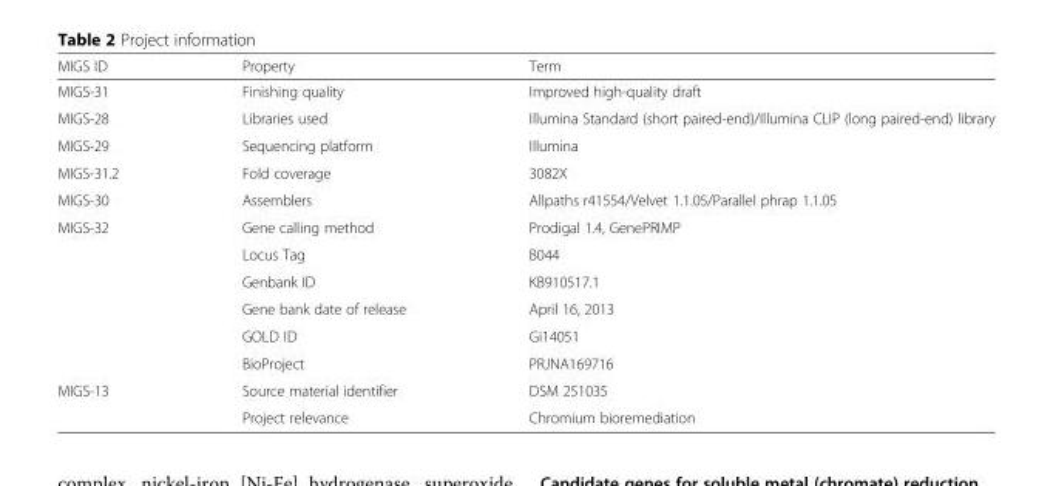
<table><thead><tr><td>MIGS ID</td><td>Property</td><td>Term</td></tr></thead><tbody><tr><td>MIGS-31</td><td>Finishing quality</td><td>Improved high-quality draft</td></tr><tr><td>MIGS-28</td><td>Libraries used</td><td>Illumina Standard (short paired-end)/Illumina CLIP (long paired-end) library</td></tr><tr><td>MIGS-29</td><td>Sequencing platform</td><td>Illumina</td></tr><tr><td>MIGS-31.2</td><td>Fold coverage</td><td>3082X</td></tr><tr><td>MIGS-30</td><td>Assemblers</td><td>Allpaths r41554/Velvet 1.1.05/Parallel phrap 1.1.05</td></tr><tr><td rowspan="6">MIGS-32</td><td>Gene calling method</td><td>Prodigal 1.4, GenePRIMP</td></tr><tr><td>Locus Tag</td><td>B044</td></tr><tr><td>Genbank ID</td><td>KB910517.1</td></tr><tr><td>Gene bank date of release</td><td>April 16, 2013</td></tr><tr><td>GOLD ID</td><td>Gi14051</td></tr><tr><td>BioProject</td><td>PRJNA169716</td></tr><tr><td rowspan="2">MIGS-13</td><td>Source material identifier</td><td>DSM 251035</td></tr><tr><td>Project relevance</td><td>Chromium bioremediation</td></tr></tbody></table>